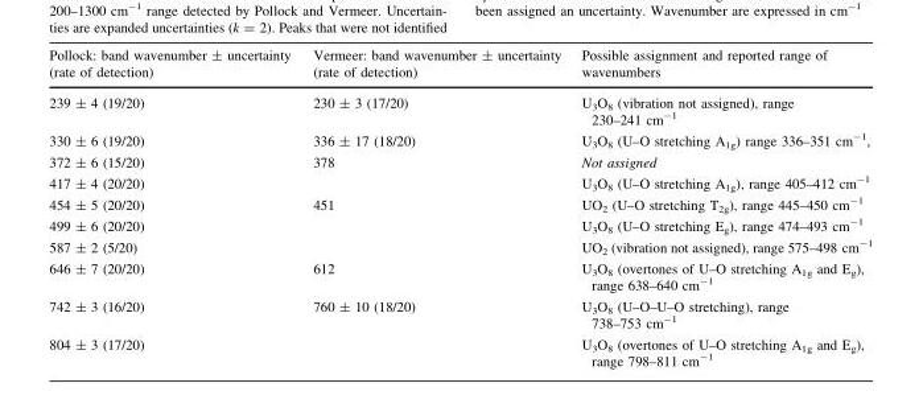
<table><thead><tr><td>Pollock: band wavenumber ± uncertainty (rate of detection)</td><td>Vermeer: band wavenumber ± uncertainty (rate of detection)</td><td>Possible assignment and reported range of wavenumbers</td></tr></thead><tbody><tr><td>239 ± 4 (19/20)</td><td>230 ± 3 (17/20)</td><td>U<sub>3</sub>O<sub>8</sub> (vibration not assigned), range 230–241 cm<sup>-1</sup></td></tr><tr><td>330 ± 6 (19/20)</td><td>336 ± 17 (18/20)</td><td>U<sub>3</sub>O<sub>8</sub> (U–O stretching A<sub>1g</sub>) range 336–351 cm<sup>-1</sup>,</td></tr><tr><td>372 ± 6 (15/20)</td><td>378</td><td>Not assigned</td></tr><tr><td>417 ± 4 (20/20)</td><td></td><td>U<sub>3</sub>O<sub>8</sub> (U–O stretching A<sub>1g</sub>), range 405–412 cm<sup>-1</sup></td></tr><tr><td>454 ± 5 (20/20)</td><td>451</td><td>UO<sub>2</sub> (U–O stretching T<sub>2g</sub>), range 445–450 cm<sup>-1</sup></td></tr><tr><td>499 ± 6 (20/20)</td><td></td><td>U<sub>3</sub>O<sub>8</sub> (U–O stretching E<sub>g</sub>), range 474–493 cm<sup>-1</sup></td></tr><tr><td>587 ± 2 (5/20)</td><td></td><td>UO<sub>2</sub> (vibration not assigned), range 575–498 cm<sup>-1</sup></td></tr><tr><td>646 ± 7 (20/20)</td><td>612</td><td>U<sub>3</sub>O<sub>8</sub> (overtones of U–O stretching A<sub>1g</sub> and E<sub>g</sub>), range 638–640 cm<sup>-1</sup></td></tr><tr><td>742 ± 3 (16/20)</td><td>760 ± 10 (18/20)</td><td>U<sub>3</sub>O<sub>8</sub> (U–O–U–O stretching), range 738–753 cm<sup>-1</sup></td></tr><tr><td>804 ± 3 (17/20)</td><td></td><td>U<sub>3</sub>O<sub>8</sub> (overtones of U–O stretching A<sub>1g</sub> and E<sub>g</sub>), range 798–811 cm<sup>-1</sup></td></tr></tbody></table>